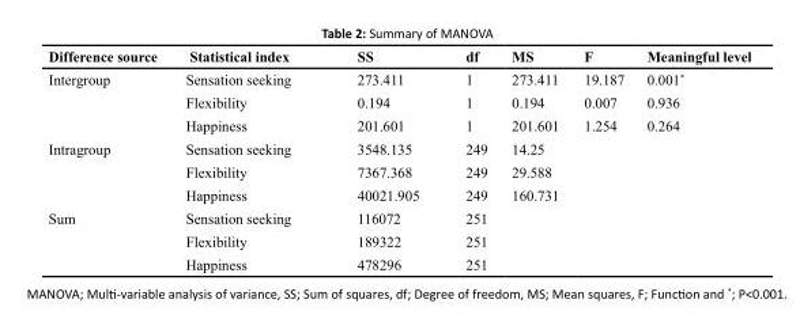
<table><thead><tr><td>Difference source</td><td>Statistical index</td><td>SS</td><td>df</td><td>MS</td><td>F</td><td>Meaningful level</td></tr></thead><tbody><tr><td rowspan="3">Intergroup</td><td>Sensation seeking</td><td>273.411</td><td>1</td><td>273.411</td><td>19.187</td><td>0.001*</td></tr><tr><td>Flexibility</td><td>0.194</td><td>1</td><td>0.194</td><td>0.007</td><td>0.936</td></tr><tr><td>Happiness</td><td>201.601</td><td>1</td><td>201.601</td><td>1.254</td><td>0.264</td></tr><tr><td rowspan="3">Intragroup</td><td>Sensation seeking</td><td>3548.135</td><td>249</td><td>14.25</td><td></td><td></td></tr><tr><td>Flexibility</td><td>7367.368</td><td>249</td><td>29.588</td><td></td><td></td></tr><tr><td>Happiness</td><td>40021.905</td><td>249</td><td>160.731</td><td></td><td></td></tr><tr><td rowspan="3">Sum</td><td>Sensation seeking</td><td>116072</td><td>251</td><td></td><td></td><td></td></tr><tr><td>Flexibility</td><td>189322</td><td>251</td><td></td><td></td><td></td></tr><tr><td>Happiness</td><td>478296</td><td>251</td><td></td><td></td><td></td></tr></tbody></table>